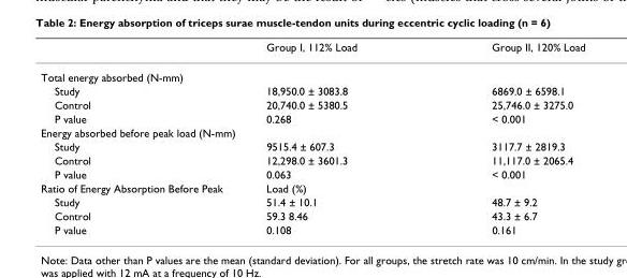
<table><thead><tr><td></td><td>Group I, 112% Load</td><td>Group II, 120% Load</td></tr></thead><tbody><tr><td colspan="3">Total energy absorbed (N-mm)</td></tr><tr><td>Study</td><td>18,950.0 ± 3083.8</td><td>6869.0 ± 6598.1</td></tr><tr><td>Control</td><td>20,740.0 ± 5380.5</td><td>25,746.0 ± 3275.0</td></tr><tr><td>P value</td><td>0.268</td><td>&lt; 0.001</td></tr><tr><td colspan="3">Energy absorbed before peak load (N-mm)</td></tr><tr><td>Study</td><td>9515.4 ± 607.3</td><td>3117.7 ± 2819.3</td></tr><tr><td>Control</td><td>12,298.0 ± 3601.3</td><td>11,117.0 ± 2065.4</td></tr><tr><td>P value</td><td>0.063</td><td>&lt; 0.001</td></tr><tr><td>Ratio of Energy Absorption Before Peak</td><td>Load (%)</td><td></td></tr><tr><td>Study</td><td>51.4 ± 10.1</td><td>48.7 ± 9.2</td></tr><tr><td>Control</td><td>59.3 8.46</td><td>43.3 ± 6.7</td></tr><tr><td>P value</td><td>0.108</td><td>0.161</td></tr></tbody></table>